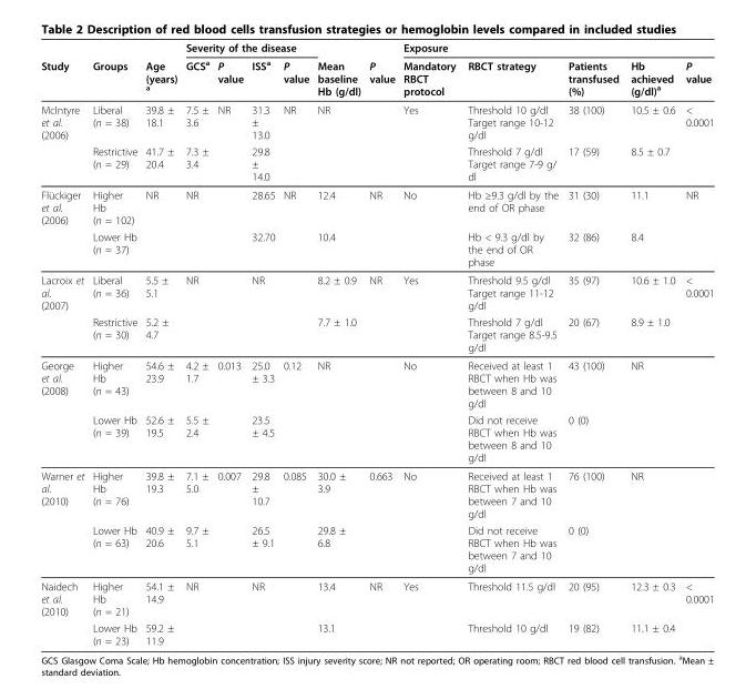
<table><thead><tr><td rowspan="2">Study</td><td rowspan="2">Groups</td><td rowspan="2">Age (years) <sup>a</sup></td><td colspan="4">Severity of the disease</td><td rowspan="2">Mean baseline Hb (g/dl)</td><td rowspan="2">P value</td><td rowspan="2">Exposure Mandatory RBCT protocol</td><td rowspan="2">RBCT strategy</td><td rowspan="2">Patients transfused (%)</td><td rowspan="2">Hb achieved (g/dl)<sup>a</sup></td><td rowspan="2">P value</td></tr><tr><td>GCS<sup>a</sup></td><td>P value</td><td>ISS<sup>a</sup></td><td>P value</td></tr></thead><tbody><tr><td rowspan="2">McIntyre et al. (2006)</td><td>Liberal (n = 38)</td><td>39.8 ± 18.1</td><td>7.5 ± 3.6</td><td>NR</td><td>31.3 ± 13.0</td><td>NR</td><td>NR</td><td></td><td>Yes</td><td>Threshold 10 g/dl Target range 10-12 g/dl</td><td>38 (100)</td><td>10.5 ± 0.6</td><td>&lt; 0.0001</td></tr><tr><td>Restrictive (n = 29)</td><td>41.7 ± 20.4</td><td>7.3 ± 3.4</td><td></td><td>29.8 ± 14.0</td><td></td><td></td><td></td><td></td><td>Threshold 7 g/dl Target range 7-9 g/ dl</td><td>17 (59)</td><td>8.5 ± 0.7</td><td></td></tr><tr><td rowspan="2">Flückiger et al. (2006)</td><td>Higher Hb (n = 102)</td><td>NR</td><td>NR</td><td></td><td>28.65</td><td>NR</td><td>12.4</td><td>NR</td><td>No</td><td>Hb ≥9.3 g/dl by the end of OR phase</td><td>31 (30)</td><td>11.1</td><td>NR</td></tr><tr><td>Lower Hb (n = 37)</td><td></td><td></td><td></td><td>32.70</td><td></td><td>10.4</td><td></td><td></td><td>Hb &lt; 9.3 g/dl by the end of OR phase</td><td>32 (86)</td><td>8.4</td><td></td></tr><tr><td rowspan="2">Lacroix et al. (2007)</td><td>Liberal (n = 36)</td><td>5.5 ± 5.1</td><td>NR</td><td></td><td>NR</td><td></td><td>8.2 ± 0.9</td><td>NR</td><td>Yes</td><td>Threshold 9.5 g/dl Target range 11-12 g/dl</td><td>35 (97)</td><td>10.6 ± 1.0</td><td>&lt; 0.0001</td></tr><tr><td>Restrictive (n = 30)</td><td>5.2 ± 4.7</td><td></td><td></td><td></td><td></td><td>7.7 ± 1.0</td><td></td><td></td><td>Threshold 7 g/dl Target range 8.5-9.5 g/dl</td><td>20 (67)</td><td>8.9 ± 1.0</td><td></td></tr><tr><td rowspan="2">George et al. (2008)</td><td>Higher Hb (n = 43)</td><td>54.6 ± 23.9</td><td>4.2 ± 1.7</td><td>0.013</td><td>25.0 ± 3.3</td><td>0.12</td><td>NR</td><td></td><td>No</td><td>Received at least 1 RBCT when Hb was between 8 and 10 g/dl</td><td>43 (100)</td><td>NR</td><td></td></tr><tr><td>Lower Hb (n = 39)</td><td>52.6 ± 19.5</td><td>5.5 ± 2.4</td><td></td><td>23.5 ± 4.5</td><td></td><td></td><td></td><td></td><td>Did not receive RBCT when Hb was between 8 and 10 g/dl</td><td>0 (0)</td><td></td><td></td></tr><tr><td rowspan="2">Warner et al. (2010)</td><td>Higher Hb (n = 76)</td><td>39.8 ± 19.3</td><td>7.1 ± 5.0</td><td>0.007</td><td>29.8 ± 10.7</td><td>0.085</td><td>30.0 ± 3.9</td><td>0.663</td><td>No</td><td>Received at least 1 RBCT when Hb was between 7 and 10 g/dl</td><td>76 (100)</td><td>NR</td><td></td></tr><tr><td>Lower Hb (n = 63)</td><td>40.9 ± 20.6</td><td>9.7 ± 5.1</td><td></td><td>26.5 ± 9.1</td><td></td><td>29.8 ± 6.8</td><td></td><td></td><td>Did not receive RBCT when Hb was between 7 and 10 g/dl</td><td>0 (0)</td><td></td><td></td></tr><tr><td rowspan="2">Naidech et al. (2010)</td><td>Higher Hb (n = 21)</td><td>54.1 ± 14.9</td><td>NR</td><td></td><td>NR</td><td></td><td>13.4</td><td>NR</td><td>Yes</td><td>Threshold 11.5 g/dl</td><td>20 (95)</td><td>12.3 ± 0.3</td><td>&lt; 0.0001</td></tr><tr><td>Lower Hb (n = 23)</td><td>59.2 ± 11.9</td><td></td><td></td><td></td><td></td><td>13.1</td><td></td><td></td><td>Threshold 10 g/dl</td><td>19 (82)</td><td>11.1 ± 0.4</td><td></td></tr></tbody></table>